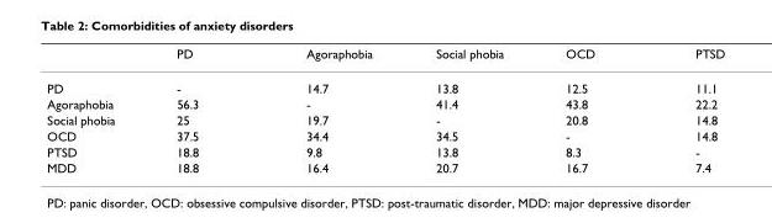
<table><thead><tr><td></td><td>PD</td><td>Agoraphobia</td><td>Social phobia</td><td>OCD</td><td>PTSD</td></tr></thead><tbody><tr><td>PD</td><td>-</td><td>14.7</td><td>13.8</td><td>12.5</td><td>11.1</td></tr><tr><td>Agoraphobia</td><td>56.3</td><td>-</td><td>41.4</td><td>43.8</td><td>22.2</td></tr><tr><td>Social phobia</td><td>25</td><td>19.7</td><td>-</td><td>20.8</td><td>14.8</td></tr><tr><td>OCD</td><td>37.5</td><td>34.4</td><td>34.5</td><td>-</td><td>14.8</td></tr><tr><td>PTSD</td><td>18.8</td><td>9.8</td><td>13.8</td><td>8.3</td><td>-</td></tr><tr><td>MDD</td><td>18.8</td><td>16.4</td><td>20.7</td><td>16.7</td><td>7.4</td></tr></tbody></table>